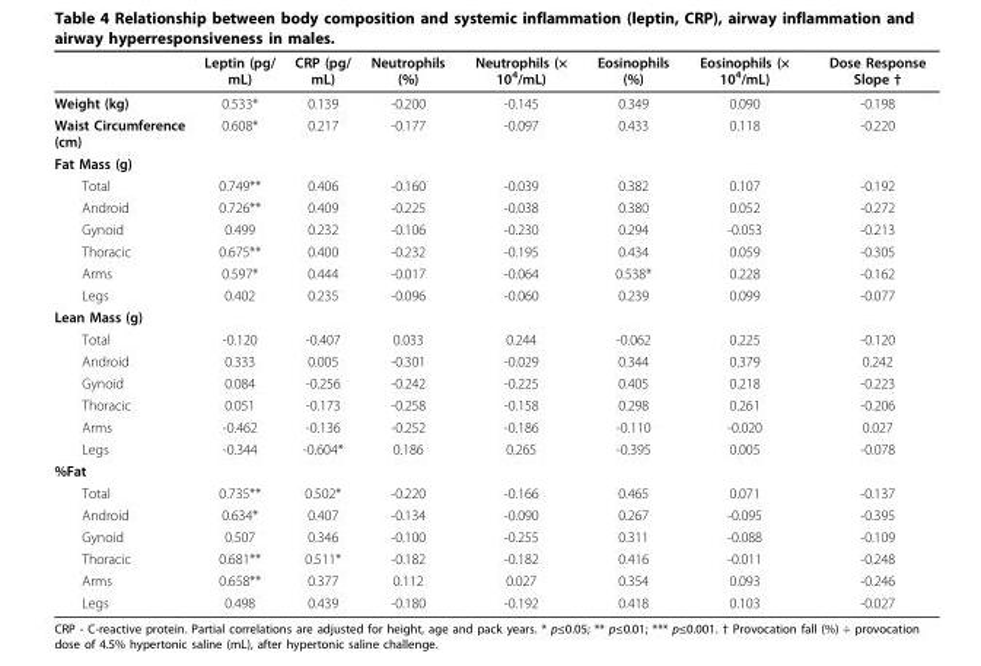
<table><thead><tr><td></td><td>Leptin (pg/ mL)</td><td>CRP (pg/ mL)</td><td>Neutrophils (%)</td><td>Neutrophils (× 10<sup>4</sup>/mL)</td><td>Eosinophils (%)</td><td>Eosinophils (× 10<sup>4</sup>/mL)</td><td>Dose Response Slope †</td></tr></thead><tbody><tr><td>Weight (kg)</td><td>0.533*</td><td>0.139</td><td>-0.200</td><td>-0.145</td><td>0.349</td><td>0.090</td><td>-0.198</td></tr><tr><td>Waist Circumference (cm)</td><td>0.608*</td><td>0.217</td><td>-0.177</td><td>-0.097</td><td>0.433</td><td>0.118</td><td>-0.220</td></tr><tr><td colspan="8">Fat Mass (g)</td></tr><tr><td>Total</td><td>0.749**</td><td>0.406</td><td>-0.160</td><td>-0.039</td><td>0.382</td><td>0.107</td><td>-0.192</td></tr><tr><td>Android</td><td>0.726**</td><td>0.409</td><td>-0.225</td><td>-0.038</td><td>0.380</td><td>0.052</td><td>-0.272</td></tr><tr><td>Gynoid</td><td>0.499</td><td>0.232</td><td>-0.106</td><td>-0.230</td><td>0.294</td><td>-0.053</td><td>-0.213</td></tr><tr><td>Thoracic</td><td>0.675**</td><td>0.400</td><td>-0.232</td><td>-0.195</td><td>0.434</td><td>0.059</td><td>-0.305</td></tr><tr><td>Arms</td><td>0.597*</td><td>0.444</td><td>-0.017</td><td>-0.064</td><td>0.538*</td><td>0.228</td><td>-0.162</td></tr><tr><td>Legs</td><td>0.402</td><td>0.235</td><td>-0.096</td><td>-0.060</td><td>0.239</td><td>0.099</td><td>-0.077</td></tr><tr><td colspan="8">Lean Mass (g)</td></tr><tr><td>Total</td><td>-0.120</td><td>-0.407</td><td>0.033</td><td>0.244</td><td>-0.062</td><td>0.225</td><td>-0.120</td></tr><tr><td>Android</td><td>0.333</td><td>0.005</td><td>-0.301</td><td>-0.029</td><td>0.344</td><td>0.379</td><td>0.242</td></tr><tr><td>Gynoid</td><td>0.084</td><td>-0.256</td><td>-0.242</td><td>-0.225</td><td>0.405</td><td>0.218</td><td>-0.223</td></tr><tr><td>Thoracic</td><td>0.051</td><td>-0.173</td><td>-0.258</td><td>-0.158</td><td>0.298</td><td>0.261</td><td>-0.206</td></tr><tr><td>Arms</td><td>-0.462</td><td>-0.136</td><td>-0.252</td><td>-0.186</td><td>-0.110</td><td>-0.020</td><td>0.027</td></tr><tr><td>Legs</td><td>-0.344</td><td>-0.604*</td><td>0.186</td><td>0.265</td><td>-0.395</td><td>0.005</td><td>-0.078</td></tr><tr><td colspan="8">%Fat</td></tr><tr><td>Total</td><td>0.735**</td><td>0.502*</td><td>-0.220</td><td>-0.166</td><td>0.465</td><td>0.071</td><td>-0.137</td></tr><tr><td>Android</td><td>0.634*</td><td>0.407</td><td>-0.134</td><td>-0.090</td><td>0.267</td><td>-0.095</td><td>-0.395</td></tr><tr><td>Gynoid</td><td>0.507</td><td>0.346</td><td>-0.100</td><td>-0.255</td><td>0.311</td><td>-0.088</td><td>-0.109</td></tr><tr><td>Thoracic</td><td>0.681**</td><td>0.511*</td><td>-0.182</td><td>-0.182</td><td>0.416</td><td>-0.011</td><td>-0.248</td></tr><tr><td>Arms</td><td>0.658**</td><td>0.377</td><td>0.112</td><td>0.027</td><td>0.354</td><td>0.093</td><td>-0.246</td></tr><tr><td>Legs</td><td>0.498</td><td>0.439</td><td>-0.180</td><td>-0.192</td><td>0.418</td><td>0.103</td><td>-0.027</td></tr></tbody></table>